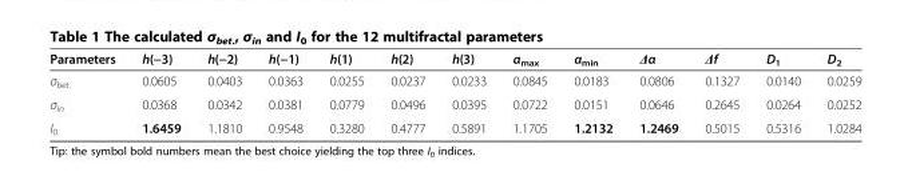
<table><thead><tr><td>Parameters</td><td>h(−3)</td><td>h(−2)</td><td>h(−1)</td><td>h(1)</td><td>h(2)</td><td>h(3)</td><td>α<sub>max</sub></td><td>α<sub>min</sub></td><td>Δα</td><td>Δf</td><td>D<sub>1</sub></td><td>D<sub>2</sub></td></tr></thead><tbody><tr><td>σ<sub>bet.</sub></td><td>0.0605</td><td>0.0403</td><td>0.0363</td><td>0.0255</td><td>0.0237</td><td>0.0233</td><td>0.0845</td><td>0.0183</td><td>0.0806</td><td>0.1327</td><td>0.0140</td><td>0.0259</td></tr><tr><td>σ<sub>in</sub></td><td>0.0368</td><td>0.0342</td><td>0.0381</td><td>0.0779</td><td>0.0496</td><td>0.0395</td><td>0.0722</td><td>0.0151</td><td>0.0646</td><td>0.2645</td><td>0.0264</td><td>0.0252</td></tr><tr><td>I<sub>0</sub></td><td>1.6459</td><td>1.1810</td><td>0.9548</td><td>0.3280</td><td>0.4777</td><td>0.5891</td><td>1.1705</td><td>1.2132</td><td>1.2469</td><td>0.5015</td><td>0.5316</td><td>1.0284</td></tr></tbody></table>